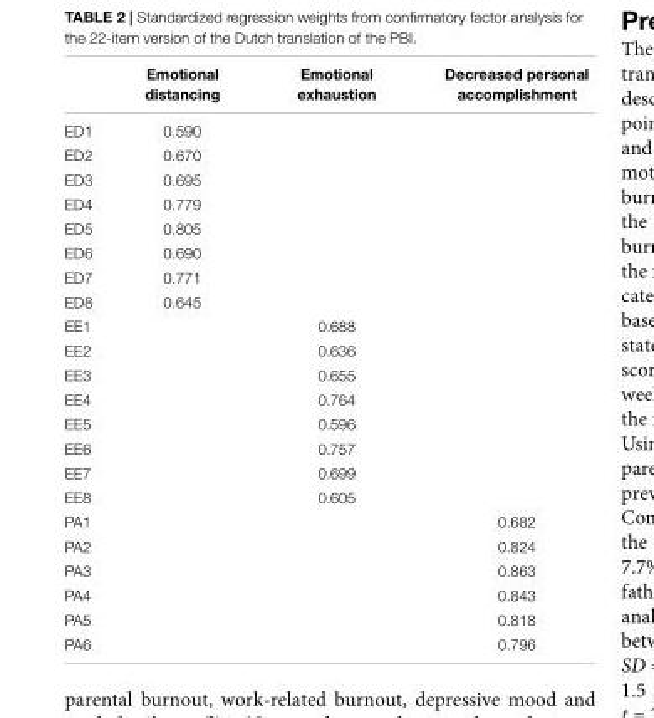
<table><thead><tr><td></td><td>Emotional distancing</td><td>Emotional exhaustion</td><td>Decreased personal accomplishment</td></tr></thead><tbody><tr><td>ED1</td><td>0.590</td><td></td><td></td></tr><tr><td>ED2</td><td>0.670</td><td></td><td></td></tr><tr><td>ED3</td><td>0.695</td><td></td><td></td></tr><tr><td>ED4</td><td>0.779</td><td></td><td></td></tr><tr><td>ED5</td><td>0.805</td><td></td><td></td></tr><tr><td>ED6</td><td>0.690</td><td></td><td></td></tr><tr><td>ED7</td><td>0.771</td><td></td><td></td></tr><tr><td>ED8</td><td>0.645</td><td></td><td></td></tr><tr><td>EE1</td><td></td><td>0.688</td><td></td></tr><tr><td>EE2</td><td></td><td>0.636</td><td></td></tr><tr><td>EE3</td><td></td><td>0.655</td><td></td></tr><tr><td>EE4</td><td></td><td>0.764</td><td></td></tr><tr><td>EE5</td><td></td><td>0.596</td><td></td></tr><tr><td>EE6</td><td></td><td>0.757</td><td></td></tr><tr><td>EE7</td><td></td><td>0.699</td><td></td></tr><tr><td>EE8</td><td></td><td>0.605</td><td></td></tr><tr><td>PA1</td><td></td><td></td><td>0.682</td></tr><tr><td>PA2</td><td></td><td></td><td>0.824</td></tr><tr><td>PA3</td><td></td><td></td><td>0.863</td></tr><tr><td>PA4</td><td></td><td></td><td>0.843</td></tr><tr><td>PA5</td><td></td><td></td><td>0.818</td></tr><tr><td>PA6</td><td></td><td></td><td>0.796</td></tr></tbody></table>